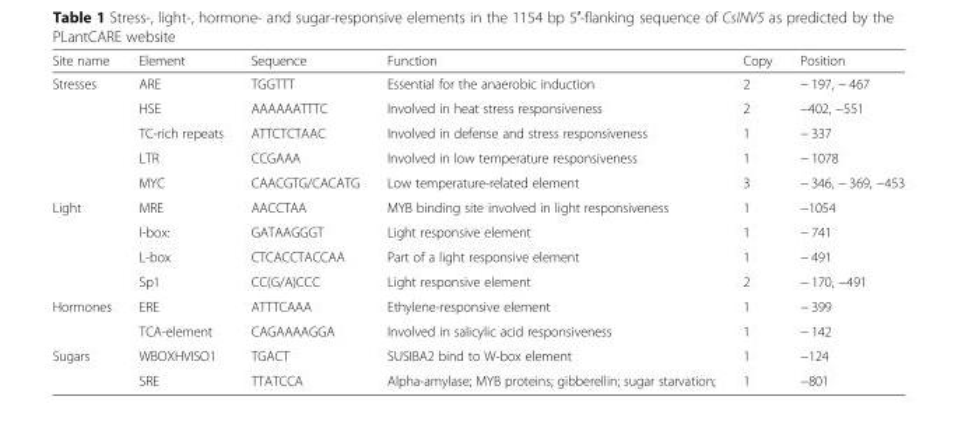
<table><thead><tr><td>Site name</td><td>Element</td><td>Sequence</td><td>Function</td><td>Copy</td><td>Position</td></tr></thead><tbody><tr><td rowspan="5">Stresses</td><td>ARE</td><td>TGGTTT</td><td>Essential for the anaerobic induction</td><td>2</td><td>− 197, − 467</td></tr><tr><td>HSE</td><td>AAAAAATTTC</td><td>Involved in heat stress responsiveness</td><td>2</td><td>−402, −551</td></tr><tr><td>TC-rich repeats</td><td>ATTCTCTAAC</td><td>Involved in defense and stress responsiveness</td><td>1</td><td>− 337</td></tr><tr><td>LTR</td><td>CCGAAA</td><td>Involved in low temperature responsiveness</td><td>1</td><td>− 1078</td></tr><tr><td>MYC</td><td>CAACGTG/CACATG</td><td>Low temperature-related element</td><td>3</td><td>− 346, − 369, −453</td></tr><tr><td rowspan="4">Light</td><td>MRE</td><td>AACCTAA</td><td>MYB binding site involved in light responsiveness</td><td>1</td><td>−1054</td></tr><tr><td>I-box:</td><td>GATAAGGGT</td><td>Light responsive element</td><td>1</td><td>− 741</td></tr><tr><td>L-box</td><td>CTCACCTACCAA</td><td>Part of a light responsive element</td><td>1</td><td>− 491</td></tr><tr><td>Sp1</td><td>CC(G/A)CCC</td><td>Light responsive element</td><td>2</td><td>− 170, −491</td></tr><tr><td rowspan="2">Hormones</td><td>ERE</td><td>ATTTCAAA</td><td>Ethylene-responsive element</td><td>1</td><td>− 399</td></tr><tr><td>TCA-element</td><td>CAGAAAAGGA</td><td>Involved in salicylic acid responsiveness</td><td>1</td><td>− 142</td></tr><tr><td rowspan="2">Sugars</td><td>WBOXHVISO1</td><td>TGACT</td><td>SUSIBA2 bind to W-box element</td><td>1</td><td>−124</td></tr><tr><td>SRE</td><td>TTATCCA</td><td>Alpha-amylase; MYB proteins; gibberellin; sugar starvation;</td><td>1</td><td>−801</td></tr></tbody></table>